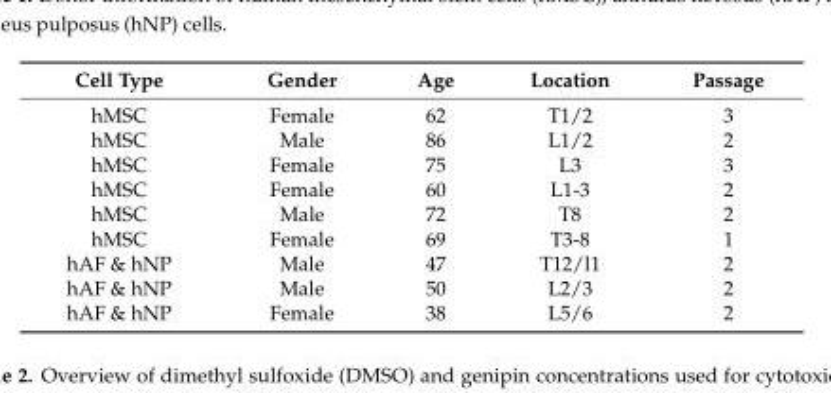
<table><thead><tr><td>Cell Type</td><td>Gender</td><td>Age</td><td>Location</td><td>Passage</td></tr></thead><tbody><tr><td>hMSC</td><td>Female</td><td>62</td><td>T1/2</td><td>3</td></tr><tr><td>hMSC</td><td>Male</td><td>86</td><td>L1/2</td><td>2</td></tr><tr><td>hMSC</td><td>Female</td><td>75</td><td>L3</td><td>3</td></tr><tr><td>hMSC</td><td>Female</td><td>60</td><td>L1-3</td><td>2</td></tr><tr><td>hMSC</td><td>Male</td><td>72</td><td>T8</td><td>2</td></tr><tr><td>hMSC</td><td>Female</td><td>69</td><td>T3-8</td><td>1</td></tr><tr><td>hAF &amp; hNP</td><td>Male</td><td>47</td><td>T12/l1</td><td>2</td></tr><tr><td>hAF &amp; hNP</td><td>Male</td><td>50</td><td>L2/3</td><td>2</td></tr><tr><td>hAF &amp; hNP</td><td>Female</td><td>38</td><td>L5/6</td><td>2</td></tr></tbody></table>